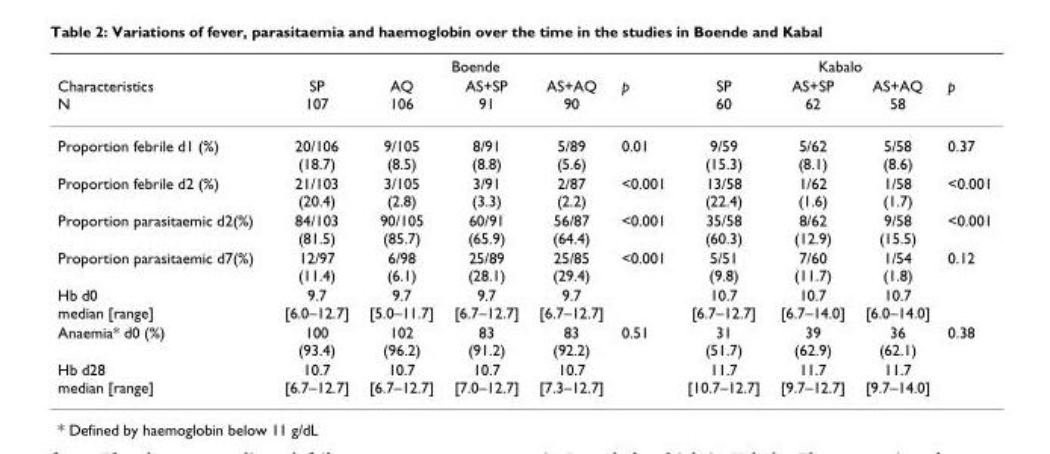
<table><thead><tr><td rowspan="2">Characteristics N</td><td colspan="5">Boende</td><td colspan="4">Kabalo</td></tr><tr><td>SP 107</td><td>AQ 106</td><td>AS+SP 91</td><td>AS+AQ 90</td><td>p</td><td>SP 60</td><td>AS+SP 62</td><td>AS+AQ 58</td><td>p</td></tr></thead><tbody><tr><td>Proportion febrile d1 (%)</td><td>20/106 (18.7)</td><td>9/105 (8.5)</td><td>8/91 (8.8)</td><td>5/89 (5.6)</td><td>0.01</td><td>9/59 (15.3)</td><td>5/62 (8.1)</td><td>5/58 (8.6)</td><td>0.37</td></tr><tr><td>Proportion febrile d2 (%)</td><td>21/103 (20.4)</td><td>3/105 (2.8)</td><td>3/91 (3.3)</td><td>2/87 (2.2)</td><td>&lt;0.001</td><td>13/58 (22.4)</td><td>1/62 (1.6)</td><td>1/58 (1.7)</td><td>&lt;0.001</td></tr><tr><td>Proportion parasitaemic d2(%)</td><td>84/103 (81.5)</td><td>90/105 (85.7)</td><td>60/91 (65.9)</td><td>56/87 (64.4)</td><td>&lt;0.001</td><td>35/58 (60.3)</td><td>8/62 (12.9)</td><td>9/58 (15.5)</td><td>&lt;0.001</td></tr><tr><td>Proportion parasitaemic d7(%)</td><td>12/97 (11.4)</td><td>6/98 (6.1)</td><td>25/89 (28.1)</td><td>25/85 (29.4)</td><td>&lt;0.001</td><td>5/51 (9.8)</td><td>7/60 (11.7)</td><td>1/54 (1.8)</td><td>0.12</td></tr><tr><td>Hb d0 median [range]</td><td>9.7 [6.0–12.7]</td><td>9.7 [5.0–11.7]</td><td>9.7 [6.7–12.7]</td><td>9.7 [6.7–12.7]</td><td></td><td>10.7 [6.7–12.7]</td><td>10.7 [6.7–14.0]</td><td>10.7 [6.0–14.0]</td><td></td></tr><tr><td>Anaemia* d0 (%)</td><td>100 (93.4)</td><td>102 (96.2)</td><td>83 (91.2)</td><td>83 (92.2)</td><td>0.51</td><td>31 (51.7)</td><td>39 (62.9)</td><td>36 (62.1)</td><td>0.38</td></tr><tr><td>Hb d28 median [range]</td><td>10.7 [6.7–12.7]</td><td>10.7 [6.7–12.7]</td><td>10.7 [7.0–12.7]</td><td>10.7 [7.3–12.7]</td><td></td><td>11.7 [10.7–12.7]</td><td>11.7 [9.7–12.7]</td><td>11.7 [9.7–14.0]</td><td></td></tr></tbody></table>